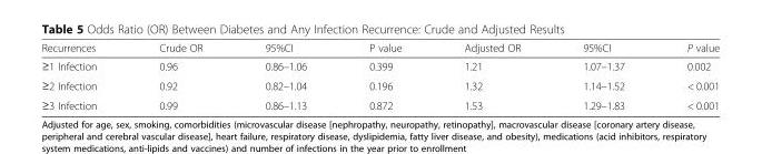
<table><thead><tr><td>Recurrences</td><td>Crude OR</td><td>95%CI</td><td>P value</td><td>Adjusted OR</td><td>95%CI</td><td>P value</td></tr></thead><tbody><tr><td>≥1 Infection</td><td>0.96</td><td>0.86–1.06</td><td>0.399</td><td>1.21</td><td>1.07–1.37</td><td>0.002</td></tr><tr><td>≥2 Infection</td><td>0.92</td><td>0.82–1.04</td><td>0.196</td><td>1.32</td><td>1.14–1.52</td><td>&lt; 0.001</td></tr><tr><td>≥3 Infection</td><td>0.99</td><td>0.86–1.13</td><td>0.872</td><td>1.53</td><td>1.29–1.83</td><td>&lt; 0.001</td></tr></tbody></table>